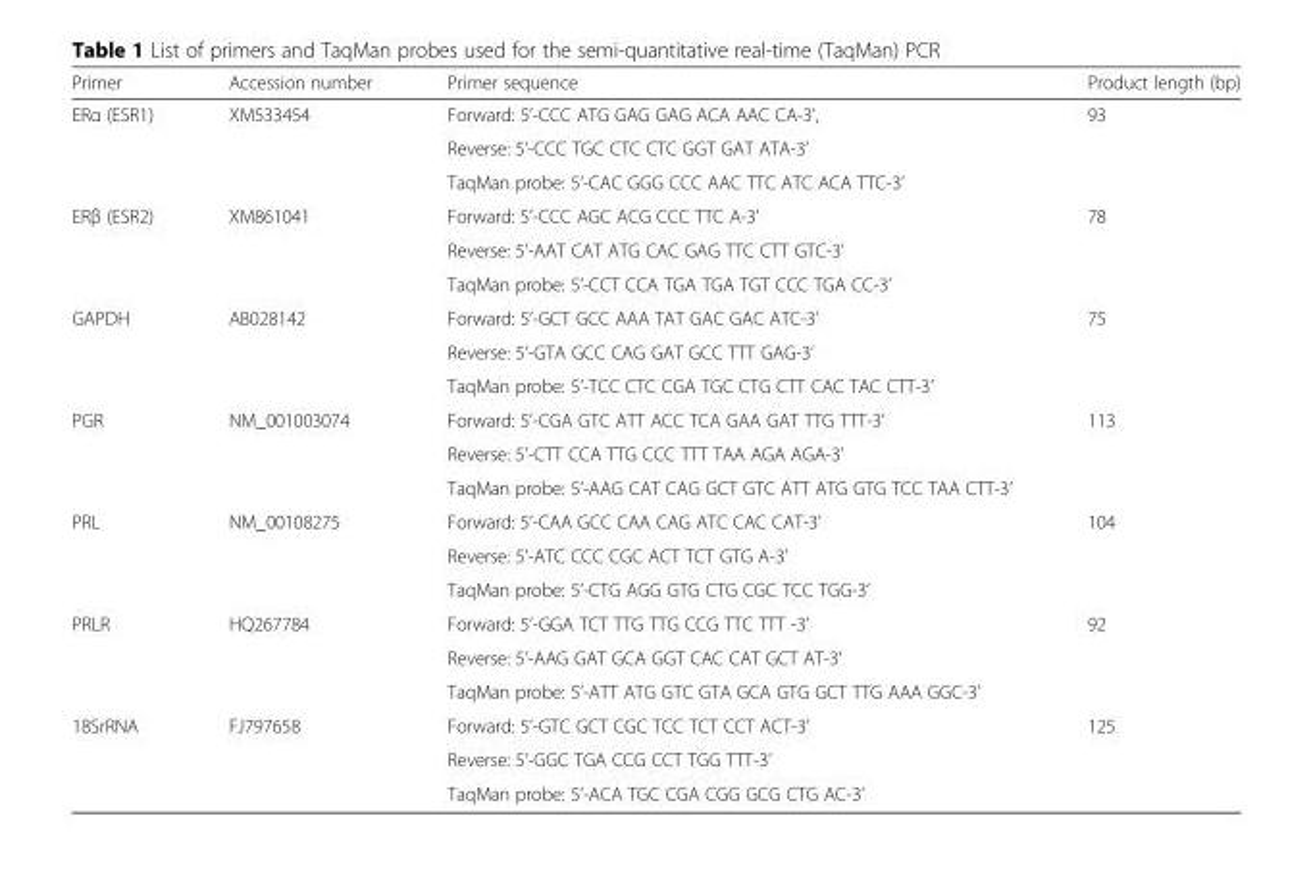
<table><thead><tr><td>Primer</td><td>Accession number</td><td>Primer sequence</td><td>Product length (bp)</td></tr></thead><tbody><tr><td rowspan="3">ERα (ESR1)</td><td rowspan="3">XM533454</td><td>Forward: 5’-CCC ATG GAG GAG ACA AAC CA-3’,</td><td rowspan="3">93</td></tr><tr><td>Reverse: 5’-CCC TGC CTC CTC GGT GAT ATA-3’</td></tr><tr><td>TaqMan probe: 5’-CAC GGG CCC AAC TTC ATC ACA TTC-3’</td></tr><tr><td rowspan="3">ERβ (ESR2)</td><td rowspan="3">XM861041</td><td>Forward: 5’-CCC AGC ACG CCC TTC A-3’</td><td rowspan="3">78</td></tr><tr><td>Reverse: 5’-AAT CAT ATG CAC GAG TTC CTT GTC-3’</td></tr><tr><td>TaqMan probe: 5’-CCT CCA TGA TGA TGT CCC TGA CC-3’</td></tr><tr><td rowspan="3">GAPDH</td><td rowspan="3">AB028142</td><td>Forward: 5’-GCT GCC AAA TAT GAC GAC ATC-3’</td><td rowspan="3">75</td></tr><tr><td>Reverse: 5’-GTA GCC CAG GAT GCC TTT GAG-3’</td></tr><tr><td>TaqMan probe: 5’-TCC CTC CGA TGC CTG CTT CAC TAC CTT-3’</td></tr><tr><td rowspan="3">PGR</td><td rowspan="3">NM_001003074</td><td>Forward: 5’-CGA GTC ATT ACC TCA GAA GAT TTG TTT-3’</td><td rowspan="3">113</td></tr><tr><td>Reverse: 5’-CTT CCA TTG CCC TTT TAA AGA AGA-3’</td></tr><tr><td>TaqMan probe: 5’-AAG CAT CAG GCT GTC ATT ATG GTG TCC TAA CTT-3’</td></tr><tr><td rowspan="3">PRL</td><td rowspan="3">NM_00108275</td><td>Forward: 5’-CAA GCC CAA CAG ATC CAC CAT-3’</td><td rowspan="3">104</td></tr><tr><td>Reverse: 5’-ATC CCC CGC ACT TCT GTG A-3’</td></tr><tr><td>TaqMan probe: 5’-CTG AGG GTG CTG CGC TCC TGG-3’</td></tr><tr><td rowspan="3">PRLR</td><td rowspan="3">HQ267784</td><td>Forward: 5’-GGA TCT TTG TTG CCG TTC TTT -3’</td><td rowspan="3">92</td></tr><tr><td>Reverse: 5’-AAG GAT GCA GGT CAC CAT GCT AT-3’</td></tr><tr><td>TaqMan probe: 5’-ATT ATG GTC GTA GCA GTG GCT TTG AAA GGC-3’</td></tr><tr><td rowspan="3">18SrRNA</td><td rowspan="3">FJ797658</td><td>Forward: 5’-GTC GCT CGC TCC TCT CCT ACT-3’</td><td rowspan="3">125</td></tr><tr><td>Reverse: 5’-GGC TGA CCG CCT TGG TTT-3’</td></tr><tr><td>TaqMan probe: 5’-ACA TGC CGA CGG GCG CTG AC-3’</td></tr></tbody></table>